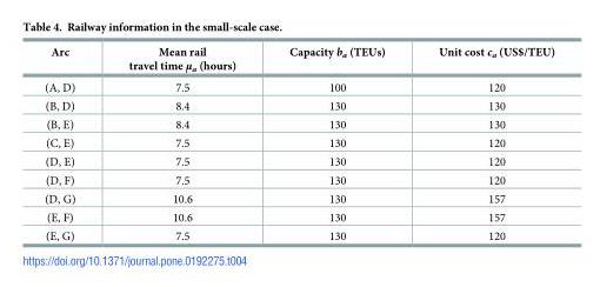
<table><thead><tr><td>Arc</td><td>Mean rail travel time μ<sub>a</sub> (hours)</td><td>Capacity b<sub>a</sub> (TEUs)</td><td>Unit cost c<sub>a</sub> (US$/TEU)</td></tr></thead><tbody><tr><td>(A, D)</td><td>7.5</td><td>100</td><td>120</td></tr><tr><td>(B, D)</td><td>8.4</td><td>130</td><td>130</td></tr><tr><td>(B, E)</td><td>8.4</td><td>130</td><td>130</td></tr><tr><td>(C, E)</td><td>7.5</td><td>130</td><td>120</td></tr><tr><td>(D, E)</td><td>7.5</td><td>130</td><td>120</td></tr><tr><td>(D, F)</td><td>7.5</td><td>130</td><td>120</td></tr><tr><td>(D, G)</td><td>10.6</td><td>130</td><td>157</td></tr><tr><td>(E, F)</td><td>10.6</td><td>130</td><td>157</td></tr><tr><td>(E, G)</td><td>7.5</td><td>130</td><td>120</td></tr></tbody></table>